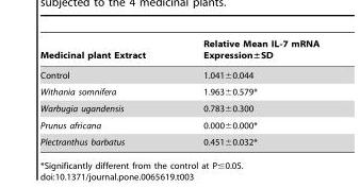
<table><thead><tr><td>Medicinal plant Extract</td><td>Relative Mean IL-7 mRNA Expression±SD</td></tr></thead><tbody><tr><td>Control</td><td>1.041±0.044</td></tr><tr><td>Withania somnifera</td><td>1.963±0.579*</td></tr><tr><td>Warbugia ugandensis</td><td>0.783±0.300</td></tr><tr><td>Prunus africana</td><td>0.000±0.000*</td></tr><tr><td>Plectranthus barbatus</td><td>0.451±0.032*</td></tr></tbody></table>